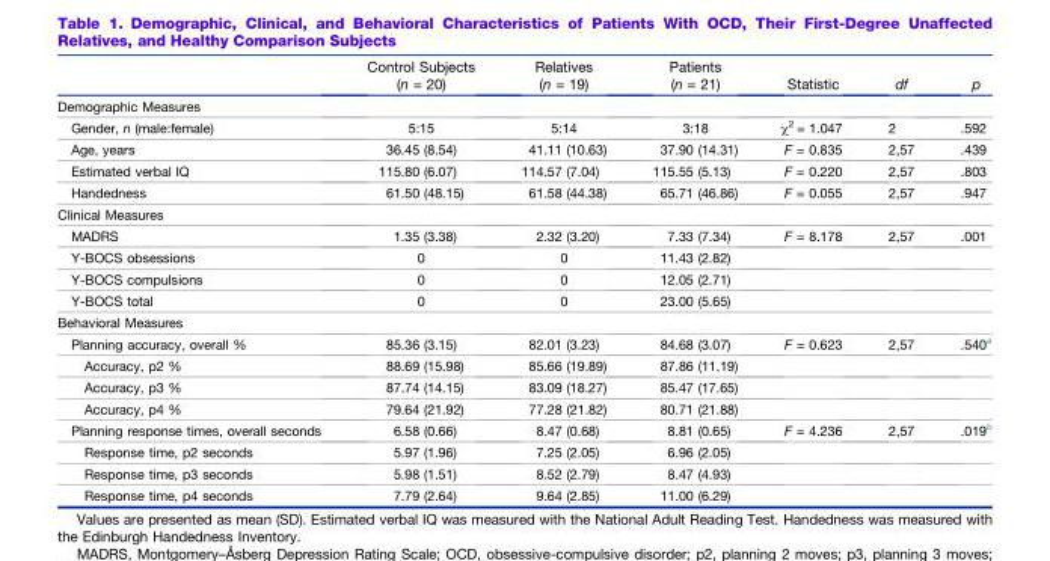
<table><thead><tr><td></td><td>Control Subjects (n = 20)</td><td>Relatives (n = 19)</td><td>Patients (n = 21)</td><td>Statistic</td><td>df</td><td>p</td></tr></thead><tbody><tr><td colspan="7">Demographic Measures</td></tr><tr><td>Gender, n (male:female)</td><td>5:15</td><td>5:14</td><td>3:18</td><td>χ<sup>2</sup> = 1.047</td><td>2</td><td>.592</td></tr><tr><td>Age, years</td><td>36.45 (8.54)</td><td>41.11 (10.63)</td><td>37.90 (14.31)</td><td>F = 0.835</td><td>2,57</td><td>.439</td></tr><tr><td>Estimated verbal IQ</td><td>115.80 (6.07)</td><td>114.57 (7.04)</td><td>115.55 (5.13)</td><td>F = 0.220</td><td>2,57</td><td>.803</td></tr><tr><td>Handedness</td><td>61.50 (48.15)</td><td>61.58 (44.38)</td><td>65.71 (46.86)</td><td>F = 0.055</td><td>2,57</td><td>.947</td></tr><tr><td colspan="7">Clinical Measures</td></tr><tr><td>MADRS</td><td>1.35 (3.38)</td><td>2.32 (3.20)</td><td>7.33 (7.34)</td><td>F = 8.178</td><td>2,57</td><td>.001</td></tr><tr><td>Y-BOCS obsessions</td><td>0</td><td>0</td><td>11.43 (2.82)</td><td></td><td></td><td></td></tr><tr><td>Y-BOCS compulsions</td><td>0</td><td>0</td><td>12.05 (2.71)</td><td></td><td></td><td></td></tr><tr><td>Y-BOCS total</td><td>0</td><td>0</td><td>23.00 (5.65)</td><td></td><td></td><td></td></tr><tr><td colspan="7">Behavioral Measures</td></tr><tr><td>Planning accuracy, overall %</td><td>85.36 (3.15)</td><td>82.01 (3.23)</td><td>84.68 (3.07)</td><td>F = 0.623</td><td>2,57</td><td>.540<sup>a</sup></td></tr><tr><td>Accuracy, p2 %</td><td>88.69 (15.98)</td><td>85.66 (19.89)</td><td>87.86 (11.19)</td><td></td><td></td><td></td></tr><tr><td>Accuracy, p3 %</td><td>87.74 (14.15)</td><td>83.09 (18.27)</td><td>85.47 (17.65)</td><td></td><td></td><td></td></tr><tr><td>Accuracy, p4 %</td><td>79.64 (21.92)</td><td>77.28 (21.82)</td><td>80.71 (21.88)</td><td></td><td></td><td></td></tr><tr><td>Planning response times, overall seconds</td><td>6.58 (0.66)</td><td>8.47 (0.68)</td><td>8.81 (0.65)</td><td>F = 4.236</td><td>2,57</td><td>.019<sup>b</sup></td></tr><tr><td>Response time, p2 seconds</td><td>5.97 (1.96)</td><td>7.25 (2.05)</td><td>6.96 (2.05)</td><td></td><td></td><td></td></tr><tr><td>Response time, p3 seconds</td><td>5.98 (1.51)</td><td>8.52 (2.79)</td><td>8.47 (4.93)</td><td></td><td></td><td></td></tr><tr><td>Response time, p4 seconds</td><td>7.79 (2.64)</td><td>9.64 (2.85)</td><td>11.00 (6.29)</td><td></td><td></td><td></td></tr></tbody></table>